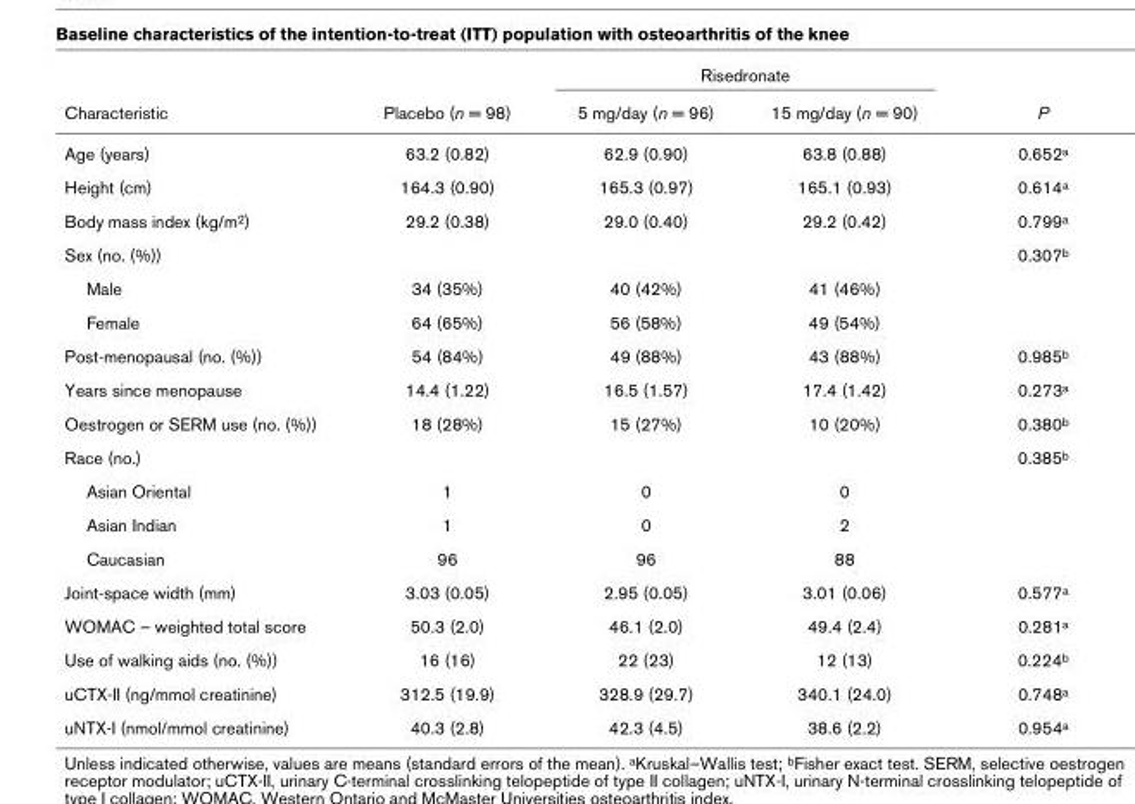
<table><thead><tr><td rowspan="2">Characteristic</td><td rowspan="2">Placebo (n = 98)</td><td colspan="2">Risedronate</td><td rowspan="2">P</td></tr><tr><td>5 mg/day (n = 96)</td><td>15 mg/day (n = 90)</td></tr></thead><tbody><tr><td>Age (years)</td><td>63.2 (0.82)</td><td>62.9 (0.90)</td><td>63.8 (0.88)</td><td>0.652a</td></tr><tr><td>Height (cm)</td><td>164.3 (0.90)</td><td>165.3 (0.97)</td><td>165.1 (0.93)</td><td>0.614a</td></tr><tr><td>Body mass index (kg/m2)</td><td>29.2 (0.38)</td><td>29.0 (0.40)</td><td>29.2 (0.42)</td><td>0.799a</td></tr><tr><td>Sex (no. (%))</td><td></td><td></td><td></td><td>0.307b</td></tr><tr><td>Male</td><td>34 (35%)</td><td>40 (42%)</td><td>41 (46%)</td><td></td></tr><tr><td>Female</td><td>64 (65%)</td><td>56 (58%)</td><td>49 (54%)</td><td></td></tr><tr><td>Post-menopausal (no. (%))</td><td>54 (84%)</td><td>49 (88%)</td><td>43 (88%)</td><td>0.985b</td></tr><tr><td>Years since menopause</td><td>14.4 (1.22)</td><td>16.5 (1.57)</td><td>17.4 (1.42)</td><td>0.273a</td></tr><tr><td>Oestrogen or SERM use (no. (%))</td><td>18 (28%)</td><td>15 (27%)</td><td>10 (20%)</td><td>0.380b</td></tr><tr><td>Race (no.)</td><td></td><td></td><td></td><td>0.385b</td></tr><tr><td>Asian Oriental</td><td>1</td><td>0</td><td>0</td><td></td></tr><tr><td>Asian Indian</td><td>1</td><td>0</td><td>2</td><td></td></tr><tr><td>Caucasian</td><td>96</td><td>96</td><td>88</td><td></td></tr><tr><td>Joint-space width (mm)</td><td>3.03 (0.05)</td><td>2.95 (0.05)</td><td>3.01 (0.06)</td><td>0.577a</td></tr><tr><td>WOMAC – weighted total score</td><td>50.3 (2.0)</td><td>46.1 (2.0)</td><td>49.4 (2.4)</td><td>0.281a</td></tr><tr><td>Use of walking aids (no. (%))</td><td>16 (16)</td><td>22 (23)</td><td>12 (13)</td><td>0.224b</td></tr><tr><td>uCTX-II (ng/mmol creatinine)</td><td>312.5 (19.9)</td><td>328.9 (29.7)</td><td>340.1 (24.0)</td><td>0.748a</td></tr><tr><td>uNTX-I (nmol/mmol creatinine)</td><td>40.3 (2.8)</td><td>42.3 (4.5)</td><td>38.6 (2.2)</td><td>0.954a</td></tr></tbody></table>